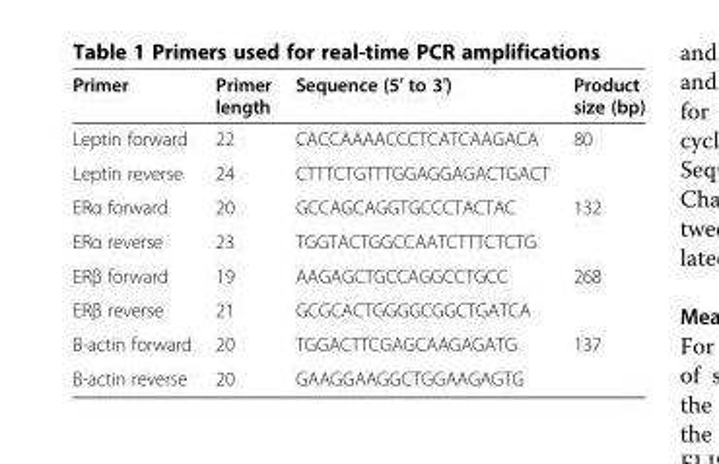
<table><thead><tr><td>Primer</td><td>Primer length</td><td>Sequence (5′ to 3′)</td><td>Product size (bp)</td></tr></thead><tbody><tr><td>Leptin forward</td><td>22</td><td>CACCAAAACCCTCATCAAGACA</td><td rowspan="2">80</td></tr><tr><td>Leptin reverse</td><td>24</td><td>CTTTCTGTTTGGAGGAGACTGACT</td></tr><tr><td>ERα forward</td><td>20</td><td>GCCAGCAGGTGCCCTACTAC</td><td rowspan="2">132</td></tr><tr><td>ERα reverse</td><td>23</td><td>TGGTACTGGCCAATCTTTCTCTG</td></tr><tr><td>ERβ forward</td><td>19</td><td>AAGAGCTGCCAGGCCTGCC</td><td rowspan="2">268</td></tr><tr><td>ERβ reverse</td><td>21</td><td>GCGCACTGGGGCGGCTGATCA</td></tr><tr><td>Β-actin forward</td><td>20</td><td>TGGACTTCGAGCAAGAGATG</td><td rowspan="2">137</td></tr><tr><td>Β-actin reverse</td><td>20</td><td>GAAGGAAGGCTGGAAGAGTG</td></tr></tbody></table>